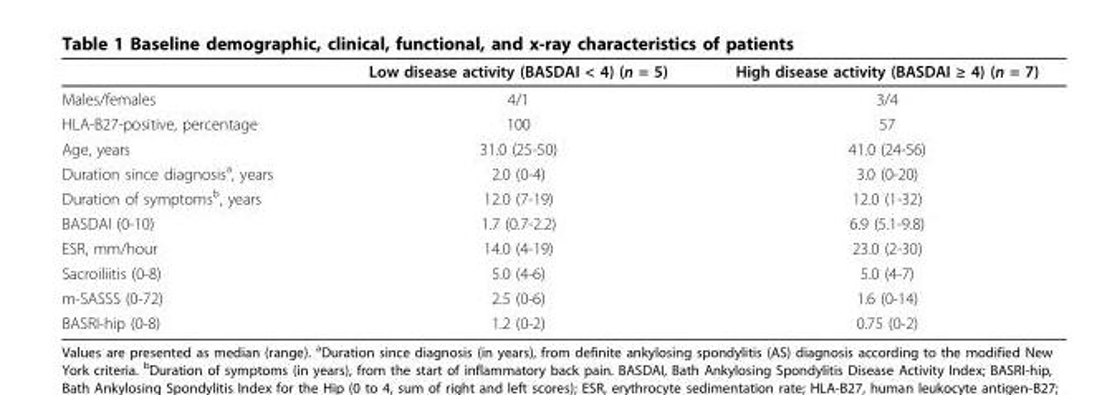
<table><thead><tr><td></td><td>Low disease activity (BASDAI &lt; 4) (n = 5)</td><td>High disease activity (BASDAI ≥ 4) (n = 7)</td></tr></thead><tbody><tr><td>Males/females</td><td>4/1</td><td>3/4</td></tr><tr><td>HLA-B27-positive, percentage</td><td>100</td><td>57</td></tr><tr><td>Age, years</td><td>31.0 (25-50)</td><td>41.0 (24-56)</td></tr><tr><td>Duration since diagnosis<sup>a</sup>, years</td><td>2.0 (0-4)</td><td>3.0 (0-20)</td></tr><tr><td>Duration of symptoms<sup>b</sup>, years</td><td>12.0 (7-19)</td><td>12.0 (1-32)</td></tr><tr><td>BASDAI (0-10)</td><td>1.7 (0.7-2.2)</td><td>6.9 (5.1-9.8)</td></tr><tr><td>ESR, mm/hour</td><td>14.0 (4-19)</td><td>23.0 (2-30)</td></tr><tr><td>Sacroiliitis (0-8)</td><td>5.0 (4-6)</td><td>5.0 (4-7)</td></tr><tr><td>m-SASSS (0-72)</td><td>2.5 (0-6)</td><td>1.6 (0-14)</td></tr><tr><td>BASRI-hip (0-8)</td><td>1.2 (0-2)</td><td>0.75 (0-2)</td></tr></tbody></table>